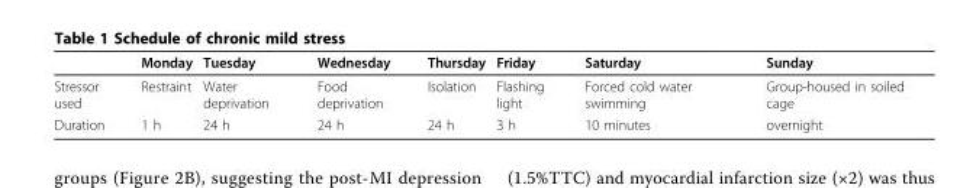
<table><thead><tr><td></td><td>Monday</td><td>Tuesday</td><td>Wednesday</td><td>Thursday</td><td>Friday</td><td>Saturday</td><td>Sunday</td></tr></thead><tbody><tr><td>Stressor used</td><td>Restraint</td><td>Water deprivation</td><td>Food deprivation</td><td>Isolation</td><td>Flashing light</td><td>Forced cold water swimming</td><td>Group-housed in soiled cage</td></tr><tr><td>Duration</td><td>1 h</td><td>24 h</td><td>24 h</td><td>24 h</td><td>3 h</td><td>10 minutes</td><td>overnight</td></tr></tbody></table>